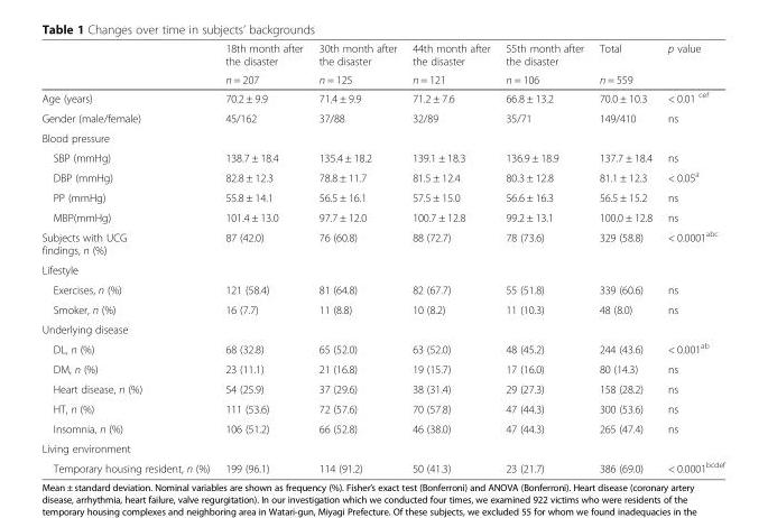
<table><thead><tr><td rowspan="2"></td><td rowspan="2">18th month after the disaster n = 207</td><td rowspan="2">30th month after the disaster n = 125</td><td rowspan="2">44th month after the disaster n = 121</td><td rowspan="2">55th month after the disaster n = 106</td><td rowspan="2">Total n = 559</td><td rowspan="2">p value</td></tr><tr></tr></thead><tbody><tr><td>Age (years)</td><td>70.2 ± 9.9</td><td>71.4 ± 9.9</td><td>71.2 ± 7.6</td><td>66.8 ± 13.2</td><td>70.0 ± 10.3</td><td>&lt; 0.01 <sup>cef</sup></td></tr><tr><td>Gender (male/female)</td><td>45/162</td><td>37/88</td><td>32/89</td><td>35/71</td><td>149/410</td><td>ns</td></tr><tr><td colspan="7">Blood pressure</td></tr><tr><td>SBP (mmHg)</td><td>138.7 ± 18.4</td><td>135.4 ± 18.2</td><td>139.1 ± 18.3</td><td>136.9 ± 18.9</td><td>137.7 ± 18.4</td><td>ns</td></tr><tr><td>DBP (mmHg)</td><td>82.8 ± 12.3</td><td>78.8 ± 11.7</td><td>81.5 ± 12.4</td><td>80.3 ± 12.8</td><td>81.1 ± 12.3</td><td>&lt; 0.05<sup>a</sup></td></tr><tr><td>PP (mmHg)</td><td>55.8 ± 14.1</td><td>56.5 ± 16.1</td><td>57.5 ± 15.0</td><td>56.6 ± 16.3</td><td>56.5 ± 15.2</td><td>ns</td></tr><tr><td>MBP(mmHg)</td><td>101.4 ± 13.0</td><td>97.7 ± 12.0</td><td>100.7 ± 12.8</td><td>99.2 ± 13.1</td><td>100.0 ± 12.8</td><td>ns</td></tr><tr><td>Subjects with UCG findings, n (%)</td><td>87 (42.0)</td><td>76 (60.8)</td><td>88 (72.7)</td><td>78 (73.6)</td><td>329 (58.8)</td><td>&lt; 0.0001<sup>abc</sup></td></tr><tr><td colspan="7">Lifestyle</td></tr><tr><td>Exercises, n (%)</td><td>121 (58.4)</td><td>81 (64.8)</td><td>82 (67.7)</td><td>55 (51.8)</td><td>339 (60.6)</td><td>ns</td></tr><tr><td>Smoker, n (%)</td><td>16 (7.7)</td><td>11 (8.8)</td><td>10 (8.2)</td><td>11 (10.3)</td><td>48 (8.0)</td><td>ns</td></tr><tr><td colspan="7">Underlying disease</td></tr><tr><td>DL, n (%)</td><td>68 (32.8)</td><td>65 (52.0)</td><td>63 (52.0)</td><td>48 (45.2)</td><td>244 (43.6)</td><td>&lt; 0.001<sup>ab</sup></td></tr><tr><td>DM, n (%)</td><td>23 (11.1)</td><td>21 (16.8)</td><td>19 (15.7)</td><td>17 (16.0)</td><td>80 (14.3)</td><td>ns</td></tr><tr><td>Heart disease, n (%)</td><td>54 (25.9)</td><td>37 (29.6)</td><td>38 (31.4)</td><td>29 (27.3)</td><td>158 (28.2)</td><td>ns</td></tr><tr><td>HT, n (%)</td><td>111 (53.6)</td><td>72 (57.6)</td><td>70 (57.8)</td><td>47 (44.3)</td><td>300 (53.6)</td><td>ns</td></tr><tr><td>Insomnia, n (%)</td><td>106 (51.2)</td><td>66 (52.8)</td><td>46 (38.0)</td><td>47 (44.3)</td><td>265 (47.4)</td><td>ns</td></tr><tr><td colspan="7">Living environment</td></tr><tr><td>Temporary housing resident, n (%)</td><td>199 (96.1)</td><td>114 (91.2)</td><td>50 (41.3)</td><td>23 (21.7)</td><td>386 (69.0)</td><td>&lt; 0.0001<sup>bcdef</sup></td></tr></tbody></table>